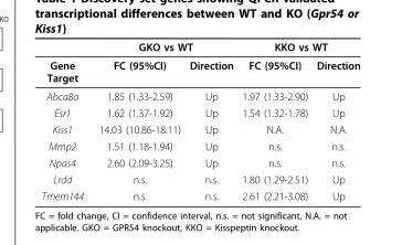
<table><thead><tr><td rowspan="2">Gene Target</td><td colspan="2">GKO vs WT</td><td colspan="2">KKO vs WT</td></tr><tr><td>FC (95%CI)</td><td>Direction</td><td>FC (95%CI)</td><td>Direction</td></tr></thead><tbody><tr><td>Abca8a</td><td>1.85 (1.33-2.59)</td><td>Up</td><td>1.97 (1.33-2.90)</td><td>Up</td></tr><tr><td>Esr1</td><td>1.62 (1.37-1.92)</td><td>Up</td><td>1.54 (1.32-1.78)</td><td>Up</td></tr><tr><td>Kiss1</td><td>14.03 (10.86-18.11)</td><td>Up</td><td>N.A.</td><td>N.A.</td></tr><tr><td>Mmp2</td><td>1.51 (1.18-1.94)</td><td>Up</td><td>n.s.</td><td>n.s.</td></tr><tr><td>Npas4</td><td>2.60 (2.09-3.25)</td><td>Up</td><td>n.s.</td><td>n.s.</td></tr><tr><td>Lrdd</td><td>n.s.</td><td>n.s.</td><td>1.80 (1.29-2.51)</td><td>Up</td></tr><tr><td>Tmem144</td><td>n.s.</td><td>n.s.</td><td>2.61 (2.21-3.08)</td><td>Up</td></tr></tbody></table>